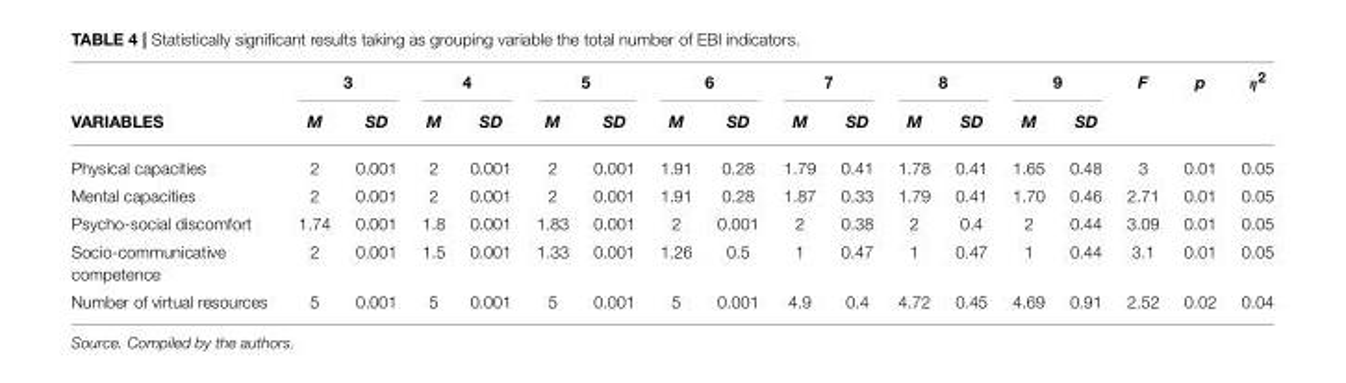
<table><thead><tr><td rowspan="2">VARIABLES</td><td colspan="2">3</td><td colspan="2">4</td><td colspan="2">5</td><td colspan="2">6</td><td colspan="2">7</td><td colspan="2">8</td><td colspan="2">9</td><td rowspan="2">F</td><td rowspan="2">p</td><td rowspan="2">η<sup>2</sup></td></tr><tr><td>M</td><td>SD</td><td>M</td><td>SD</td><td>M</td><td>SD</td><td>M</td><td>SD</td><td>M</td><td>SD</td><td>M</td><td>SD</td><td>M</td><td>SD</td></tr></thead><tbody><tr><td>Physical capacities</td><td>2</td><td>0.001</td><td>2</td><td>0.001</td><td>2</td><td>0.001</td><td>1.91</td><td>0.28</td><td>1.79</td><td>0.41</td><td>1.78</td><td>0.41</td><td>1.65</td><td>0.48</td><td>3</td><td>0.01</td><td>0.05</td></tr><tr><td>Mental capacities</td><td>2</td><td>0.001</td><td>2</td><td>0.001</td><td>2</td><td>0.001</td><td>1.91</td><td>0.28</td><td>1.87</td><td>0.33</td><td>1.79</td><td>0.41</td><td>1.70</td><td>0.46</td><td>2.71</td><td>0.01</td><td>0.05</td></tr><tr><td>Psycho-social discomfort</td><td>1.74</td><td>0.001</td><td>1.8</td><td>0.001</td><td>1.83</td><td>0.001</td><td>2</td><td>0.001</td><td>2</td><td>0.38</td><td>2</td><td>0.4</td><td>2</td><td>0.44</td><td>3.09</td><td>0.01</td><td>0.05</td></tr><tr><td>Socio-communicative competence</td><td>2</td><td>0.001</td><td>1.5</td><td>0.001</td><td>1.33</td><td>0.001</td><td>1.26</td><td>0.5</td><td>1</td><td>0.47</td><td>1</td><td>0.47</td><td>1</td><td>0.44</td><td>3.1</td><td>0.01</td><td>0.05</td></tr><tr><td>Number of virtual resources</td><td>5</td><td>0.001</td><td>5</td><td>0.001</td><td>5</td><td>0.001</td><td>5</td><td>0.001</td><td>4.9</td><td>0.4</td><td>4.72</td><td>0.45</td><td>4.69</td><td>0.91</td><td>2.52</td><td>0.02</td><td>0.04</td></tr></tbody></table>